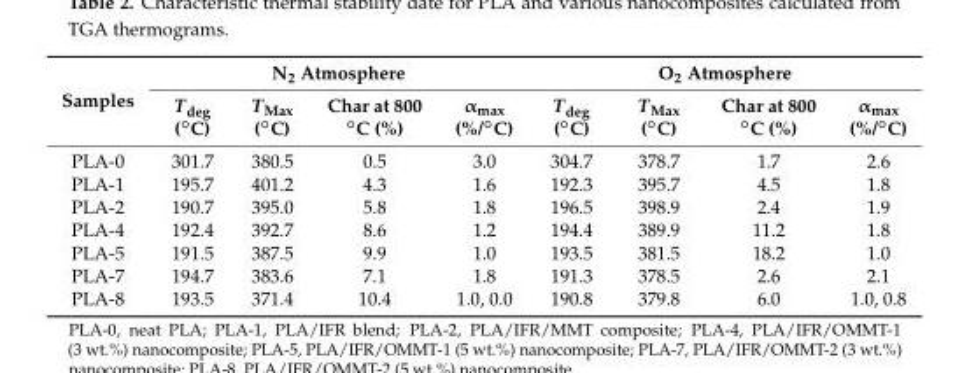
<table><thead><tr><td rowspan="2">Samples</td><td colspan="4">N2 Atmosphere</td><td colspan="4">O2 Atmosphere</td></tr><tr><td>Tdeg (◦C)</td><td>TMax (◦C)</td><td>Char at 800 ◦C (%)</td><td>αmax (%/◦C)</td><td>Tdeg (◦C)</td><td>TMax (◦C)</td><td>Char at 800 ◦C (%)</td><td>αmax (%/◦C)</td></tr></thead><tbody><tr><td>PLA-0</td><td>301.7</td><td>380.5</td><td>0.5</td><td>3.0</td><td>304.7</td><td>378.7</td><td>1.7</td><td>2.6</td></tr><tr><td>PLA-1</td><td>195.7</td><td>401.2</td><td>4.3</td><td>1.6</td><td>192.3</td><td>395.7</td><td>4.5</td><td>1.8</td></tr><tr><td>PLA-2</td><td>190.7</td><td>395.0</td><td>5.8</td><td>1.8</td><td>196.5</td><td>398.9</td><td>2.4</td><td>1.9</td></tr><tr><td>PLA-4</td><td>192.4</td><td>392.7</td><td>8.6</td><td>1.2</td><td>194.4</td><td>389.9</td><td>11.2</td><td>1.8</td></tr><tr><td>PLA-5</td><td>191.5</td><td>387.5</td><td>9.9</td><td>1.0</td><td>193.5</td><td>381.5</td><td>18.2</td><td>1.0</td></tr><tr><td>PLA-7</td><td>194.7</td><td>383.6</td><td>7.1</td><td>1.8</td><td>191.3</td><td>378.5</td><td>2.6</td><td>2.1</td></tr><tr><td>PLA-8</td><td>193.5</td><td>371.4</td><td>10.4</td><td>1.0, 0.0</td><td>190.8</td><td>379.8</td><td>6.0</td><td>1.0, 0.8</td></tr></tbody></table>